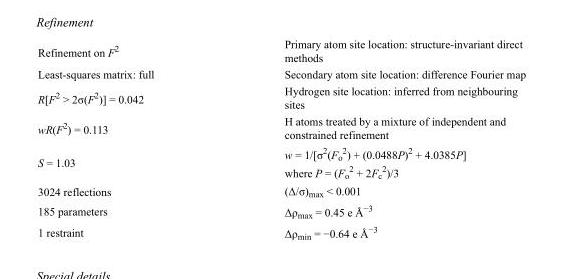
<table><tbody><tr><td>Refinement on F<sup>2</sup></td><td>Primary atom site location: structure-invariant direct methods</td></tr><tr><td>Least-squares matrix: full</td><td>Secondary atom site location: difference Fourier map</td></tr><tr><td>R[F<sup>2</sup> &gt; 2σ(F<sup>2</sup>)] = 0.042</td><td>Hydrogen site location: inferred from neighbouring sites</td></tr><tr><td>wR(F<sup>2</sup>) = 0.113</td><td>H atoms treated by a mixture of independent and constrained refinement</td></tr><tr><td>S = 1.03</td><td>w = 1/[σ<sup>2</sup>(F<sub>o</sub> <sup>2</sup>) + (0.0488P)<sup>2</sup> + 4.0385P] where P = (F<sub>o</sub> <sup>2</sup> + 2F<sub>c</sub> <sup>2</sup>)/3</td></tr><tr><td>3024 reflections</td><td>(Δ/σ)<sub>max</sub> &lt; 0.001</td></tr><tr><td>185 parameters</td><td>Δρ<sub>max</sub> = 0.45 e Å<sup>−3</sup></td></tr><tr><td>1 restraint</td><td>Δρ<sub>min</sub> = −0.64 e Å<sup>−3</sup></td></tr></tbody></table>